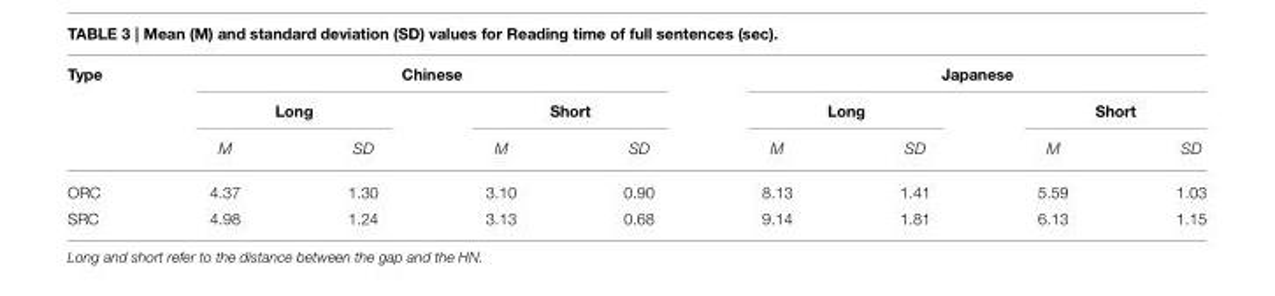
<table><thead><tr><td rowspan="3">Type</td><td colspan="4">Chinese</td><td colspan="4">Japanese</td></tr><tr><td colspan="2">Long</td><td colspan="2">Short</td><td colspan="2">Long</td><td colspan="2">Short</td></tr><tr><td>M</td><td>SD</td><td>M</td><td>SD</td><td>M</td><td>SD</td><td>M</td><td>SD</td></tr></thead><tbody><tr><td>ORC</td><td>4.37</td><td>1.30</td><td>3.10</td><td>0.90</td><td>8.13</td><td>1.41</td><td>5.59</td><td>1.03</td></tr><tr><td>SRC</td><td>4.98</td><td>1.24</td><td>3.13</td><td>0.68</td><td>9.14</td><td>1.81</td><td>6.13</td><td>1.15</td></tr></tbody></table>